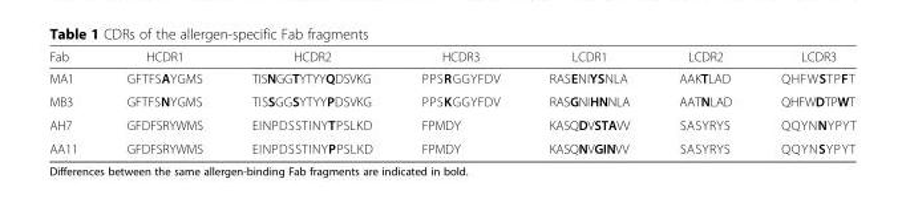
<table><thead><tr><td>Fab</td><td>HCDR1</td><td>HCDR2</td><td>HCDR3</td><td>LCDR1</td><td>LCDR2</td><td>LCDR3</td></tr></thead><tbody><tr><td>MA1</td><td>GFTFSAYGMS</td><td>TISNGGTYTYYQDSVKG</td><td>PPSRGGYFDV</td><td>RASENIYSNLA</td><td>AAKTLAD</td><td>QHFWSTPFT</td></tr><tr><td>MB3</td><td>GFTFSNYGMS</td><td>TISSGGSYTYYPDSVKG</td><td>PPSKGGYFDV</td><td>RASGNIHNNLA</td><td>AATNLAD</td><td>QHFWDTPWT</td></tr><tr><td>AH7</td><td>GFDFSRYWMS</td><td>EINPDSSTINYTPSLKD</td><td>FPMDY</td><td>KASQDVSTAVV</td><td>SASYRYS</td><td>QQYNNYPYT</td></tr><tr><td>AA11</td><td>GFDFSRYWMS</td><td>EINPDSSTINYPPSLKD</td><td>FPMDY</td><td>KASQNVGINVV</td><td>SASYRYS</td><td>QQYNSYPYT</td></tr></tbody></table>